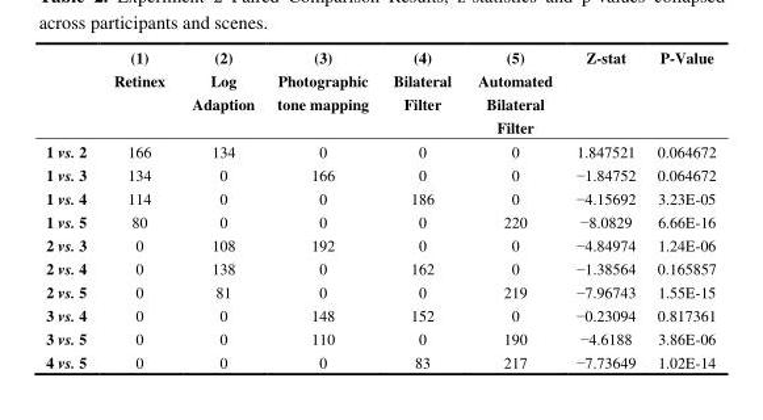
<table><thead><tr><td></td><td>(1) Retinex</td><td>(2) Log Adaption</td><td>(3) Photographic tone mapping</td><td>(4) Bilateral Filter</td><td>(5) Automated Bilateral Filter</td><td>Z-stat</td><td>P-Value</td></tr></thead><tbody><tr><td>1 vs. 2</td><td>166</td><td>134</td><td>0</td><td>0</td><td>0</td><td>1.847521</td><td>0.064672</td></tr><tr><td>1 vs. 3</td><td>134</td><td>0</td><td>166</td><td>0</td><td>0</td><td>−1.84752</td><td>0.064672</td></tr><tr><td>1 vs. 4</td><td>114</td><td>0</td><td>0</td><td>186</td><td>0</td><td>−4.15692</td><td>3.23E-05</td></tr><tr><td>1 vs. 5</td><td>80</td><td>0</td><td>0</td><td>0</td><td>220</td><td>−8.0829</td><td>6.66E-16</td></tr><tr><td>2 vs. 3</td><td>0</td><td>108</td><td>192</td><td>0</td><td>0</td><td>−4.84974</td><td>1.24E-06</td></tr><tr><td>2 vs. 4</td><td>0</td><td>138</td><td>0</td><td>162</td><td>0</td><td>−1.38564</td><td>0.165857</td></tr><tr><td>2 vs. 5</td><td>0</td><td>81</td><td>0</td><td>0</td><td>219</td><td>−7.96743</td><td>1.55E-15</td></tr><tr><td>3 vs. 4</td><td>0</td><td>0</td><td>148</td><td>152</td><td>0</td><td>−0.23094</td><td>0.817361</td></tr><tr><td>3 vs. 5</td><td>0</td><td>0</td><td>110</td><td>0</td><td>190</td><td>−4.6188</td><td>3.86E-06</td></tr><tr><td>4 vs. 5</td><td>0</td><td>0</td><td>0</td><td>83</td><td>217</td><td>−7.73649</td><td>1.02E-14</td></tr></tbody></table>